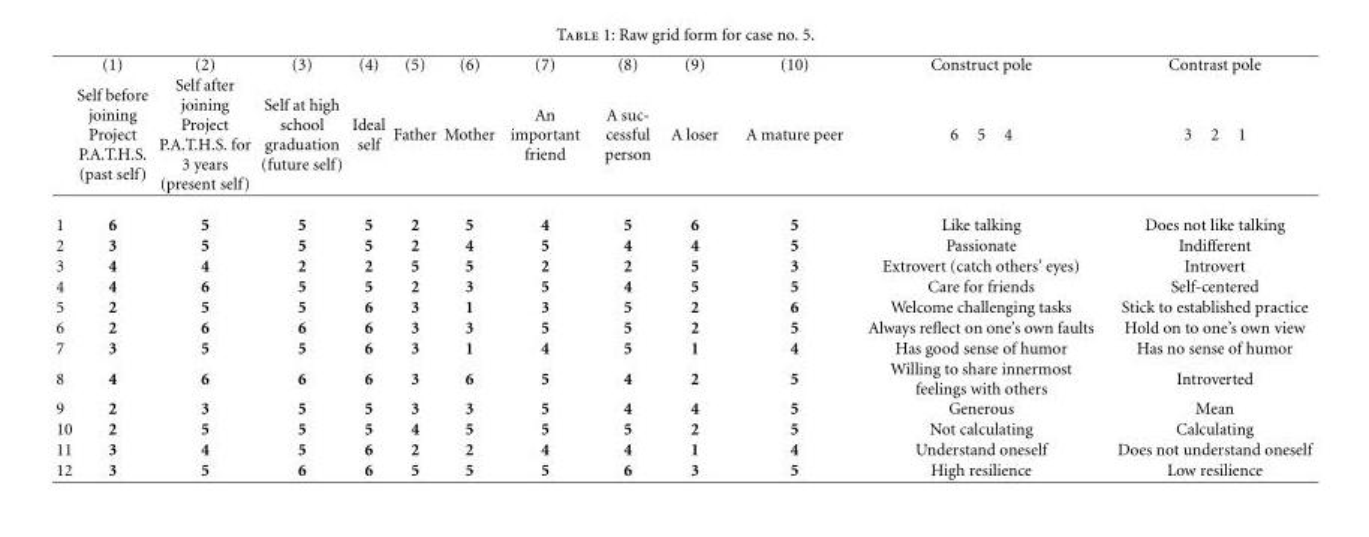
<table><thead><tr><td rowspan="2"></td><td rowspan="2">(1) Self before joining Project P.A.T.H.S. (past self)</td><td rowspan="2">(2) Self after joining Project P.A.T.H.S. for 3 years (present self)</td><td rowspan="2">(3) Self at high school graduation (future self)</td><td rowspan="2">(4) Ideal self</td><td rowspan="2">(5) Father</td><td rowspan="2">(6) Mother</td><td rowspan="2">(7) An important friend</td><td rowspan="2">(8) A suc- cessful person</td><td rowspan="2">(9) A loser</td><td rowspan="2">(10) A mature peer</td><td rowspan="2">Construct pole 6 5 4</td><td rowspan="2">Contrast pole 3 2 1</td></tr><tr></tr></thead><tbody><tr><td>1</td><td>6</td><td>5</td><td>5</td><td>5</td><td>2</td><td>5</td><td>4</td><td>5</td><td>6</td><td>5</td><td>Like talking</td><td>Does not like talking</td></tr><tr><td>2</td><td>3</td><td>5</td><td>5</td><td>5</td><td>2</td><td>4</td><td>5</td><td>4</td><td>4</td><td>5</td><td>Passionate</td><td>Indifferent</td></tr><tr><td>3</td><td>4</td><td>4</td><td>2</td><td>2</td><td>5</td><td>5</td><td>2</td><td>2</td><td>5</td><td>3</td><td>Extrovert (catch others’ eyes)</td><td>Introvert</td></tr><tr><td>4</td><td>4</td><td>6</td><td>5</td><td>5</td><td>2</td><td>3</td><td>5</td><td>4</td><td>5</td><td>5</td><td>Care for friends</td><td>Self-centered</td></tr><tr><td>5</td><td>2</td><td>5</td><td>5</td><td>6</td><td>3</td><td>1</td><td>3</td><td>5</td><td>2</td><td>6</td><td>Welcome challenging tasks</td><td>Stick to established practice</td></tr><tr><td>6</td><td>2</td><td>6</td><td>6</td><td>6</td><td>3</td><td>3</td><td>5</td><td>5</td><td>2</td><td>5</td><td>Always reflect on one’s own faults</td><td>Hold on to one’s own view</td></tr><tr><td>7</td><td>3</td><td>5</td><td>5</td><td>6</td><td>3</td><td>1</td><td>4</td><td>5</td><td>1</td><td>4</td><td>Has good sense of humor</td><td>Has no sense of humor</td></tr><tr><td>8</td><td>4</td><td>6</td><td>6</td><td>6</td><td>3</td><td>6</td><td>5</td><td>4</td><td>2</td><td>5</td><td>Willing to share innermost feelings with others</td><td>Introverted</td></tr><tr><td>9</td><td>2</td><td>3</td><td>5</td><td>5</td><td>3</td><td>3</td><td>5</td><td>4</td><td>4</td><td>5</td><td>Generous</td><td>Mean</td></tr><tr><td>10</td><td>2</td><td>5</td><td>5</td><td>5</td><td>4</td><td>5</td><td>5</td><td>5</td><td>2</td><td>5</td><td>Not calculating</td><td>Calculating</td></tr><tr><td>11</td><td>3</td><td>4</td><td>5</td><td>6</td><td>2</td><td>2</td><td>4</td><td>4</td><td>1</td><td>4</td><td>Understand oneself</td><td>Does not understand oneself</td></tr><tr><td>12</td><td>3</td><td>5</td><td>6</td><td>6</td><td>5</td><td>5</td><td>5</td><td>6</td><td>3</td><td>5</td><td>High resilience</td><td>Low resilience</td></tr></tbody></table>